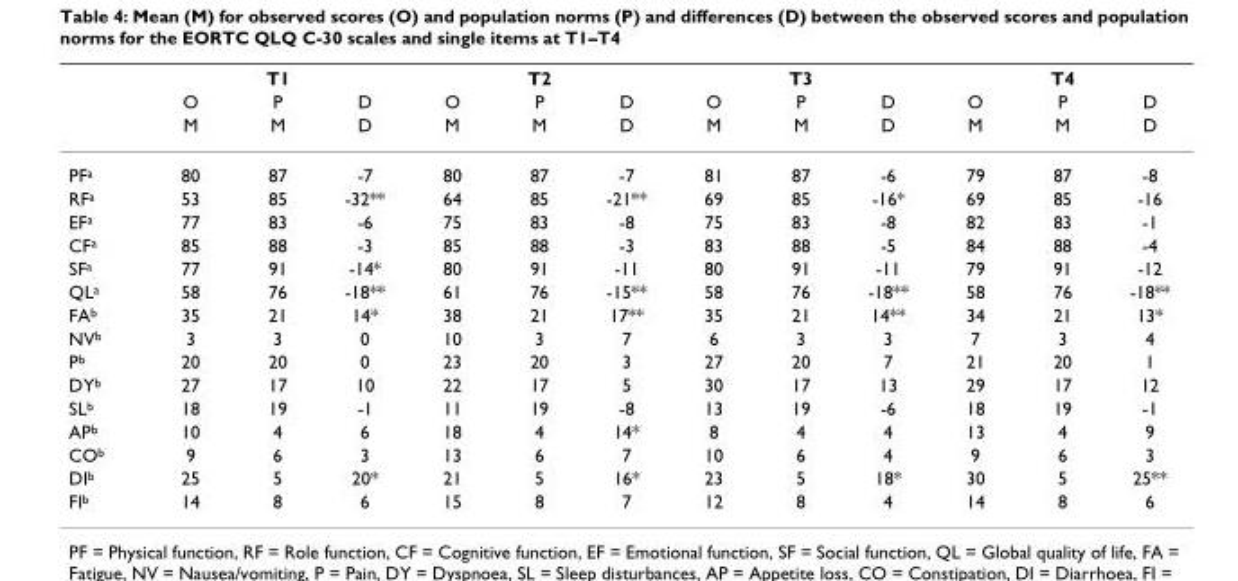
<table><thead><tr><td rowspan="3"></td><td colspan="3">T1</td><td colspan="3">T2</td><td colspan="3">T3</td><td colspan="3">T4</td></tr><tr><td rowspan="2">O M</td><td rowspan="2">P M</td><td rowspan="2">D D</td><td rowspan="2">O M</td><td rowspan="2">P M</td><td rowspan="2">D D</td><td rowspan="2">O M</td><td rowspan="2">P M</td><td rowspan="2">D D</td><td rowspan="2">O M</td><td rowspan="2">P M</td><td rowspan="2">D D</td></tr><tr></tr></thead><tbody><tr><td>PF<sup>a</sup></td><td>80</td><td>87</td><td>-7</td><td>80</td><td>87</td><td>-7</td><td>81</td><td>87</td><td>-6</td><td>79</td><td>87</td><td>-8</td></tr><tr><td>RF<sup>a</sup></td><td>53</td><td>85</td><td>-32**</td><td>64</td><td>85</td><td>-21**</td><td>69</td><td>85</td><td>-16*</td><td>69</td><td>85</td><td>-16</td></tr><tr><td>EF<sup>a</sup></td><td>77</td><td>83</td><td>-6</td><td>75</td><td>83</td><td>-8</td><td>75</td><td>83</td><td>-8</td><td>82</td><td>83</td><td>-1</td></tr><tr><td>CF<sup>a</sup></td><td>85</td><td>88</td><td>-3</td><td>85</td><td>88</td><td>-3</td><td>83</td><td>88</td><td>-5</td><td>84</td><td>88</td><td>-4</td></tr><tr><td>SF<sup>a</sup></td><td>77</td><td>91</td><td>-14*</td><td>80</td><td>91</td><td>-11</td><td>80</td><td>91</td><td>-11</td><td>79</td><td>91</td><td>-12</td></tr><tr><td>QL<sup>a</sup></td><td>58</td><td>76</td><td>-18**</td><td>61</td><td>76</td><td>-15**</td><td>58</td><td>76</td><td>-18**</td><td>58</td><td>76</td><td>-18**</td></tr><tr><td>FA<sup>b</sup></td><td>35</td><td>21</td><td>14*</td><td>38</td><td>21</td><td>17**</td><td>35</td><td>21</td><td>14**</td><td>34</td><td>21</td><td>13*</td></tr><tr><td>NV<sup>b</sup></td><td>3</td><td>3</td><td>0</td><td>10</td><td>3</td><td>7</td><td>6</td><td>3</td><td>3</td><td>7</td><td>3</td><td>4</td></tr><tr><td>P<sup>b</sup></td><td>20</td><td>20</td><td>0</td><td>23</td><td>20</td><td>3</td><td>27</td><td>20</td><td>7</td><td>21</td><td>20</td><td>1</td></tr><tr><td>DY<sup>b</sup></td><td>27</td><td>17</td><td>10</td><td>22</td><td>17</td><td>5</td><td>30</td><td>17</td><td>13</td><td>29</td><td>17</td><td>12</td></tr><tr><td>SL<sup>b</sup></td><td>18</td><td>19</td><td>-1</td><td>11</td><td>19</td><td>-8</td><td>13</td><td>19</td><td>-6</td><td>18</td><td>19</td><td>-1</td></tr><tr><td>AP<sup>b</sup></td><td>10</td><td>4</td><td>6</td><td>18</td><td>4</td><td>14*</td><td>8</td><td>4</td><td>4</td><td>13</td><td>4</td><td>9</td></tr><tr><td>CO<sup>b</sup></td><td>9</td><td>6</td><td>3</td><td>13</td><td>6</td><td>7</td><td>10</td><td>6</td><td>4</td><td>9</td><td>6</td><td>3</td></tr><tr><td>DI<sup>b</sup></td><td>25</td><td>5</td><td>20*</td><td>21</td><td>5</td><td>16*</td><td>23</td><td>5</td><td>18*</td><td>30</td><td>5</td><td>25**</td></tr><tr><td>FI<sup>b</sup></td><td>14</td><td>8</td><td>6</td><td>15</td><td>8</td><td>7</td><td>12</td><td>8</td><td>4</td><td>14</td><td>8</td><td>6</td></tr></tbody></table>